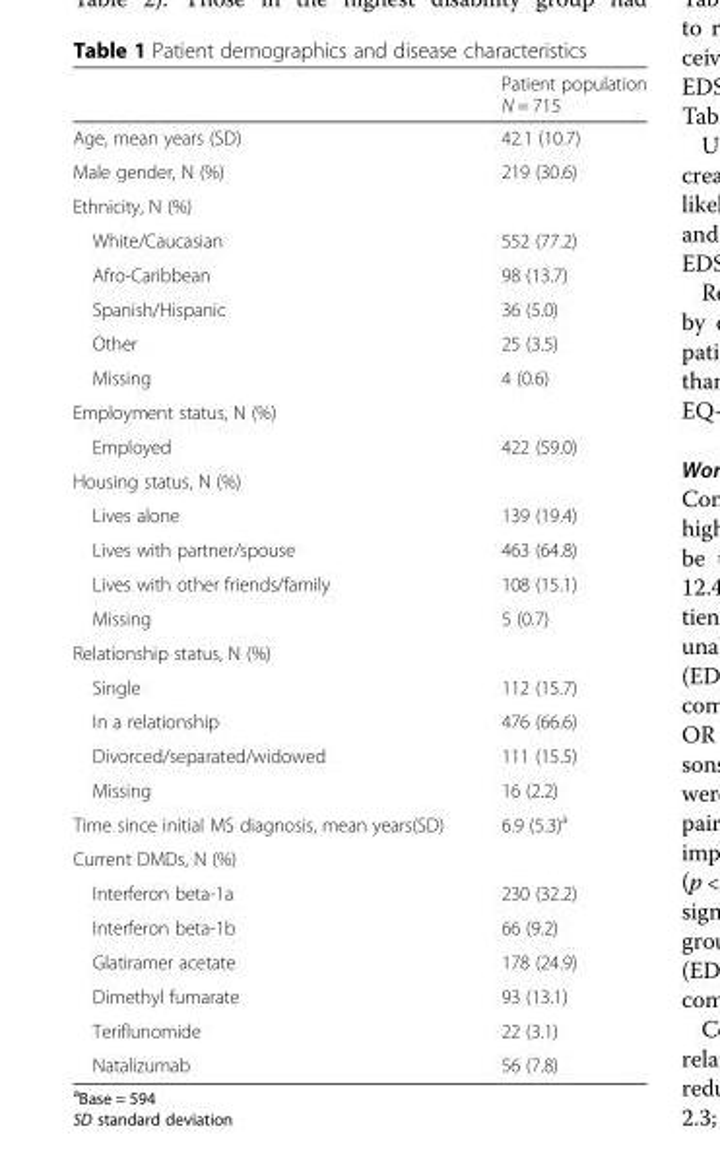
<table><thead><tr><td></td><td>Patient population N = 715</td></tr></thead><tbody><tr><td>Age, mean years (SD)</td><td>42.1 (10.7)</td></tr><tr><td>Male gender, N (%)</td><td>219 (30.6)</td></tr><tr><td colspan="2">Ethnicity, N (%)</td></tr><tr><td>White/Caucasian</td><td>552 (77.2)</td></tr><tr><td>Afro-Caribbean</td><td>98 (13.7)</td></tr><tr><td>Spanish/Hispanic</td><td>36 (5.0)</td></tr><tr><td>Other</td><td>25 (3.5)</td></tr><tr><td>Missing</td><td>4 (0.6)</td></tr><tr><td colspan="2">Employment status, N (%)</td></tr><tr><td>Employed</td><td>422 (59.0)</td></tr><tr><td colspan="2">Housing status, N (%)</td></tr><tr><td>Lives alone</td><td>139 (19.4)</td></tr><tr><td>Lives with partner/spouse</td><td>463 (64.8)</td></tr><tr><td>Lives with other friends/family</td><td>108 (15.1)</td></tr><tr><td>Missing</td><td>5 (0.7)</td></tr><tr><td colspan="2">Relationship status, N (%)</td></tr><tr><td>Single</td><td>112 (15.7)</td></tr><tr><td>In a relationship</td><td>476 (66.6)</td></tr><tr><td>Divorced/separated/widowed</td><td>111 (15.5)</td></tr><tr><td>Missing</td><td>16 (2.2)</td></tr><tr><td>Time since initial MS diagnosis, mean years(SD)</td><td>6.9 (5.3)<sup>a</sup></td></tr><tr><td colspan="2">Current DMDs, N (%)</td></tr><tr><td>Interferon beta-1a</td><td>230 (32.2)</td></tr><tr><td>Interferon beta-1b</td><td>66 (9.2)</td></tr><tr><td>Glatiramer acetate</td><td>178 (24.9)</td></tr><tr><td>Dimethyl fumarate</td><td>93 (13.1)</td></tr><tr><td>Teriflunomide</td><td>22 (3.1)</td></tr><tr><td>Natalizumab</td><td>56 (7.8)</td></tr></tbody></table>